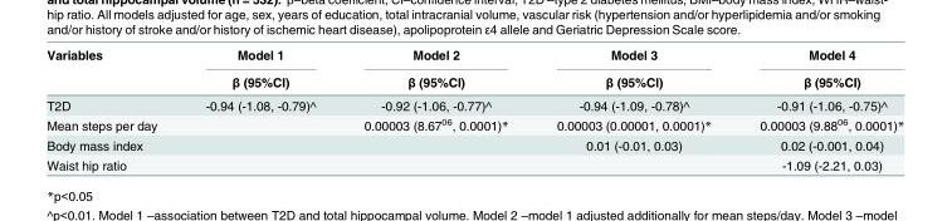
<table><thead><tr><td rowspan="2">Variables</td><td rowspan="2">Model 1 β (95%CI)</td><td rowspan="2">Model 2 β (95%CI)</td><td rowspan="2">Model 3 β (95%CI)</td><td rowspan="2">Model 4 β (95%CI)</td></tr><tr></tr></thead><tbody><tr><td>T2D</td><td>-0.94 (-1.08, -0.79)^</td><td>-0.92 (-1.06, -0.77)^</td><td>-0.94 (-1.09, -0.78)^</td><td>-0.91 (-1.06, -0.75)^</td></tr><tr><td>Mean steps per day</td><td></td><td>0.00003 (8.67<sup>06</sup>, 0.0001)*</td><td>0.00003 (0.00001, 0.0001)*</td><td>0.00003 (9.88<sup>06</sup>, 0.0001)*</td></tr><tr><td>Body mass index</td><td></td><td></td><td>0.01 (-0.01, 0.03)</td><td>0.02 (-0.001, 0.04)</td></tr><tr><td>Waist hip ratio</td><td></td><td></td><td></td><td>-1.09 (-2.21, 0.03)</td></tr></tbody></table>